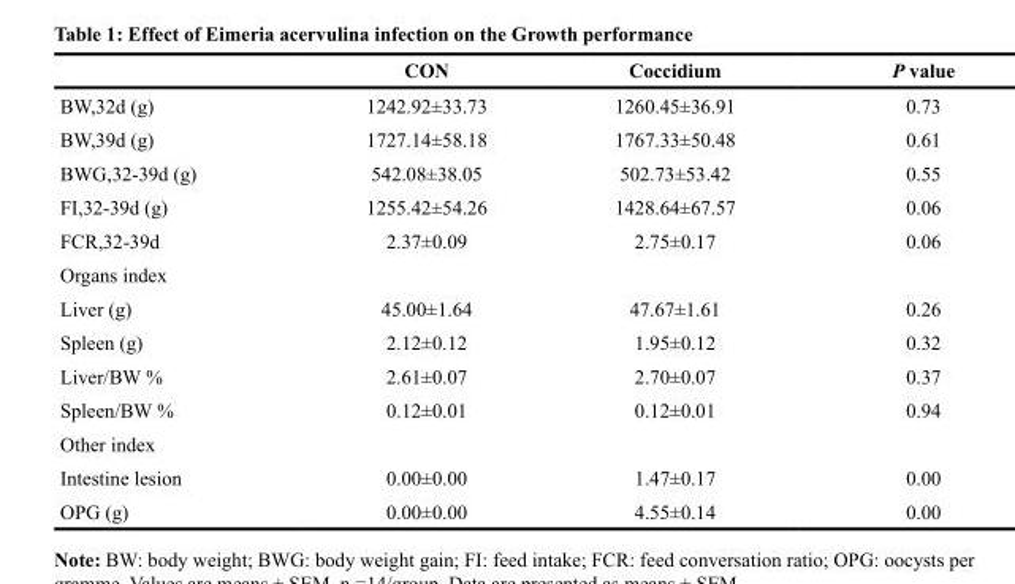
<table><thead><tr><td></td><td>CON</td><td>Coccidium</td><td>P value</td></tr></thead><tbody><tr><td>BW,32d (g)</td><td>1242.92±33.73</td><td>1260.45±36.91</td><td>0.73</td></tr><tr><td>BW,39d (g)</td><td>1727.14±58.18</td><td>1767.33±50.48</td><td>0.61</td></tr><tr><td>BWG,32-39d (g)</td><td>542.08±38.05</td><td>502.73±53.42</td><td>0.55</td></tr><tr><td>FI,32-39d (g)</td><td>1255.42±54.26</td><td>1428.64±67.57</td><td>0.06</td></tr><tr><td>FCR,32-39d</td><td>2.37±0.09</td><td>2.75±0.17</td><td>0.06</td></tr><tr><td colspan="4">Organs index</td></tr><tr><td>Liver (g)</td><td>45.00±1.64</td><td>47.67±1.61</td><td>0.26</td></tr><tr><td>Spleen (g)</td><td>2.12±0.12</td><td>1.95±0.12</td><td>0.32</td></tr><tr><td>Liver/BW %</td><td>2.61±0.07</td><td>2.70±0.07</td><td>0.37</td></tr><tr><td>Spleen/BW %</td><td>0.12±0.01</td><td>0.12±0.01</td><td>0.94</td></tr><tr><td colspan="4">Other index</td></tr><tr><td>Intestine lesion</td><td>0.00±0.00</td><td>1.47±0.17</td><td>0.00</td></tr><tr><td>OPG (g)</td><td>0.00±0.00</td><td>4.55±0.14</td><td>0.00</td></tr></tbody></table>